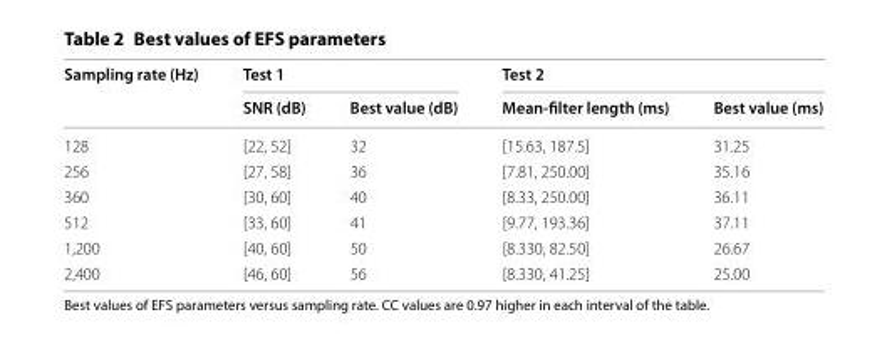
<table><thead><tr><td rowspan="2">Sampling rate (Hz)</td><td colspan="2">Test 1</td><td colspan="2">Test 2</td></tr><tr><td>SNR (dB)</td><td>Best value (dB)</td><td>Mean-filter length (ms)</td><td>Best value (ms)</td></tr></thead><tbody><tr><td>128</td><td>[22, 52]</td><td>32</td><td>[15.63, 187.5]</td><td>31.25</td></tr><tr><td>256</td><td>[27, 58]</td><td>36</td><td>[7.81, 250.00]</td><td>35.16</td></tr><tr><td>360</td><td>[30, 60]</td><td>40</td><td>[8.33, 250.00]</td><td>36.11</td></tr><tr><td>512</td><td>[33, 60]</td><td>41</td><td>[9.77, 193.36]</td><td>37.11</td></tr><tr><td>1,200</td><td>[40, 60]</td><td>50</td><td>[8.330, 82.50]</td><td>26.67</td></tr><tr><td>2,400</td><td>[46, 60]</td><td>56</td><td>[8.330, 41.25]</td><td>25.00</td></tr></tbody></table>